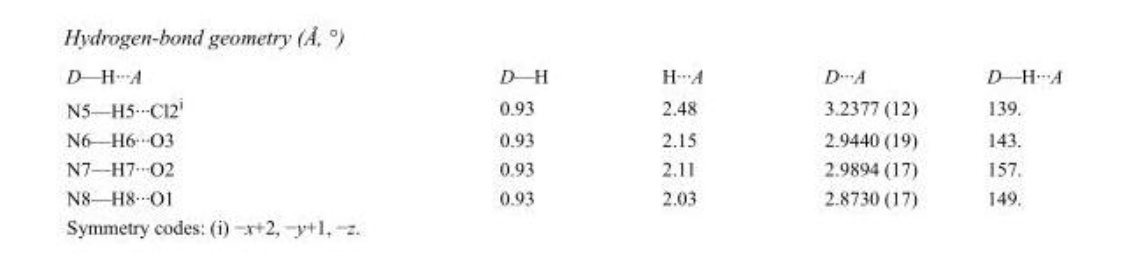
<table><tbody><tr><td>D—H···A</td><td>D—H</td><td>H···A</td><td>D···A</td><td>D—H···A</td></tr><tr><td>N5—H5···Cl2<sup>i</sup></td><td>0.93</td><td>2.48</td><td>3.2377 (12)</td><td>139.</td></tr><tr><td>N6—H6···O3</td><td>0.93</td><td>2.15</td><td>2.9440 (19)</td><td>143.</td></tr><tr><td>N7—H7···O2</td><td>0.93</td><td>2.11</td><td>2.9894 (17)</td><td>157.</td></tr><tr><td>N8—H8···O1</td><td>0.93</td><td>2.03</td><td>2.8730 (17)</td><td>149.</td></tr></tbody></table>